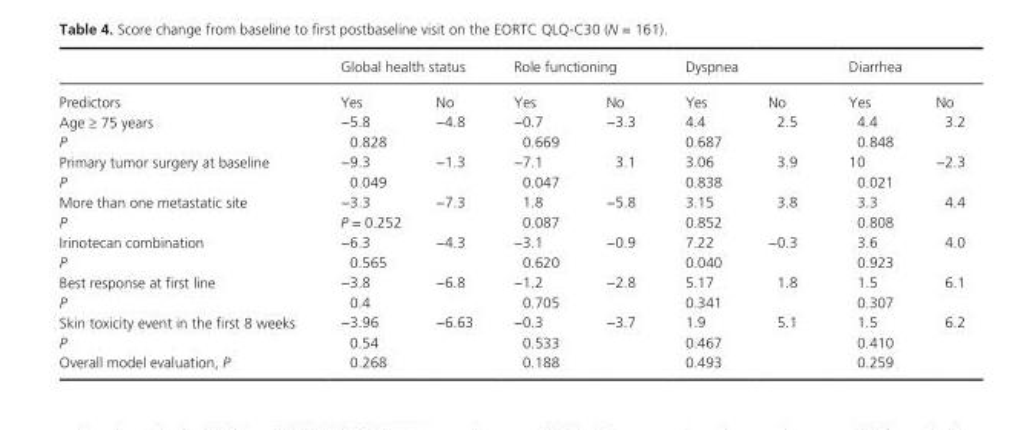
<table><thead><tr><td rowspan="2">Predictors</td><td colspan="2">Global health status</td><td colspan="2">Role functioning</td><td colspan="2">Dyspnea</td><td colspan="2">Diarrhea</td></tr><tr><td>Yes</td><td>No</td><td>Yes</td><td>No</td><td>Yes</td><td>No</td><td>Yes</td><td>No</td></tr></thead><tbody><tr><td>Age ≥ 75 years</td><td>−5.8</td><td>−4.8</td><td>−0.7</td><td>−3.3</td><td>4.4</td><td>2.5</td><td>4.4</td><td>3.2</td></tr><tr><td>P</td><td colspan="2">0.828</td><td colspan="2">0.669</td><td colspan="2">0.687</td><td colspan="2">0.848</td></tr><tr><td>Primary tumor surgery at baseline</td><td>−9.3</td><td>−1.3</td><td>−7.1</td><td>3.1</td><td>3.06</td><td>3.9</td><td>10</td><td>−2.3</td></tr><tr><td>P</td><td colspan="2">0.049</td><td colspan="2">0.047</td><td colspan="2">0.838</td><td colspan="2">0.021</td></tr><tr><td>More than one metastatic site</td><td>−3.3</td><td>−7.3</td><td>1.8</td><td>−5.8</td><td>3.15</td><td>3.8</td><td>3.3</td><td>4.4</td></tr><tr><td>P</td><td colspan="2">P = 0.252</td><td colspan="2">0.087</td><td colspan="2">0.852</td><td colspan="2">0.808</td></tr><tr><td>Irinotecan combination</td><td>−6.3</td><td>−4.3</td><td>−3.1</td><td>−0.9</td><td>7.22</td><td>−0.3</td><td>3.6</td><td>4.0</td></tr><tr><td>P</td><td colspan="2">0.565</td><td colspan="2">0.620</td><td colspan="2">0.040</td><td colspan="2">0.923</td></tr><tr><td>Best response at first line</td><td>−3.8</td><td>−6.8</td><td>−1.2</td><td>−2.8</td><td>5.17</td><td>1.8</td><td>1.5</td><td>6.1</td></tr><tr><td>P</td><td colspan="2">0.4</td><td colspan="2">0.705</td><td colspan="2">0.341</td><td colspan="2">0.307</td></tr><tr><td>Skin toxicity event in the first 8 weeks</td><td>−3.96</td><td>−6.63</td><td>−0.3</td><td>−3.7</td><td>1.9</td><td>5.1</td><td>1.5</td><td>6.2</td></tr><tr><td>P</td><td colspan="2">0.54</td><td colspan="2">0.533</td><td colspan="2">0.467</td><td colspan="2">0.410</td></tr><tr><td>Overall model evaluation, P</td><td colspan="2">0.268</td><td colspan="2">0.188</td><td colspan="2">0.493</td><td colspan="2">0.259</td></tr></tbody></table>